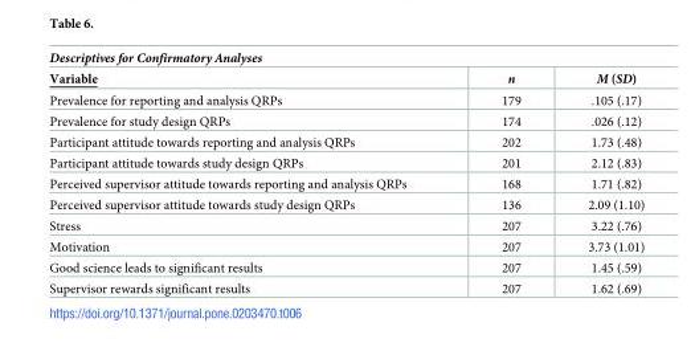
<table><thead><tr><td colspan="3">Descriptives for Confirmatory Analyses</td></tr><tr><td>Variable</td><td>n</td><td>M (SD)</td></tr></thead><tbody><tr><td>Prevalence for reporting and analysis QRPs</td><td>179</td><td>.105 (.17)</td></tr><tr><td>Prevalence for study design QRPs</td><td>174</td><td>.026 (.12)</td></tr><tr><td>Participant attitude towards reporting and analysis QRPs</td><td>202</td><td>1.73 (.48)</td></tr><tr><td>Participant attitude towards study design QRPs</td><td>201</td><td>2.12 (.83)</td></tr><tr><td>Perceived supervisor attitude towards reporting and analysis QRPs</td><td>168</td><td>1.71 (.82)</td></tr><tr><td>Perceived supervisor attitude towards study design QRPs</td><td>136</td><td>2.09 (1.10)</td></tr><tr><td>Stress</td><td>207</td><td>3.22 (.76)</td></tr><tr><td>Motivation</td><td>207</td><td>3.73 (1.01)</td></tr><tr><td>Good science leads to significant results</td><td>207</td><td>1.45 (.59)</td></tr><tr><td>Supervisor rewards significant results</td><td>207</td><td>1.62 (.69)</td></tr></tbody></table>